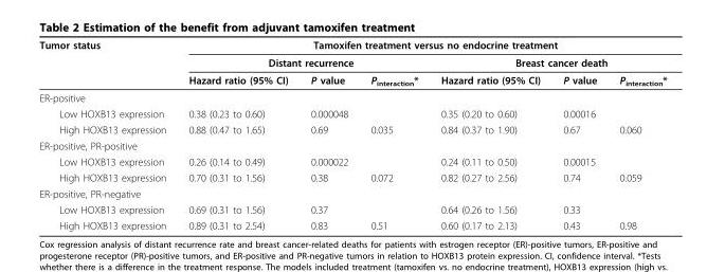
<table><thead><tr><td rowspan="3">Tumor status</td><td colspan="6">Tamoxifen treatment versus no endocrine treatment</td></tr><tr><td colspan="3">Distant recurrence</td><td colspan="3">Breast cancer death</td></tr><tr><td>Hazard ratio (95% CI)</td><td>P value</td><td>P<sub>interaction</sub>*</td><td>Hazard ratio (95% CI)</td><td>P value</td><td>P<sub>interaction</sub>*</td></tr></thead><tbody><tr><td colspan="7">ER-positive</td></tr><tr><td>Low HOXB13 expression</td><td>0.38 (0.23 to 0.60)</td><td>0.000048</td><td></td><td>0.35 (0.20 to 0.60)</td><td>0.00016</td><td></td></tr><tr><td>High HOXB13 expression</td><td>0.88 (0.47 to 1.65)</td><td>0.69</td><td>0.035</td><td>0.84 (0.37 to 1.90)</td><td>0.67</td><td>0.060</td></tr><tr><td colspan="7">ER-positive, PR-positive</td></tr><tr><td>Low HOXB13 expression</td><td>0.26 (0.14 to 0.49)</td><td>0.000022</td><td></td><td>0.24 (0.11 to 0.50)</td><td>0.00015</td><td></td></tr><tr><td>High HOXB13 expression</td><td>0.70 (0.31 to 1.56)</td><td>0.38</td><td>0.072</td><td>0.82 (0.27 to 2.56)</td><td>0.74</td><td>0.059</td></tr><tr><td colspan="7">ER-positive, PR-negative</td></tr><tr><td>Low HOXB13 expression</td><td>0.69 (0.31 to 1.56)</td><td>0.37</td><td></td><td>0.64 (0.26 to 1.56)</td><td>0.33</td><td></td></tr><tr><td>High HOXB13 expression</td><td>0.89 (0.31 to 2.54)</td><td>0.83</td><td>0.51</td><td>0.60 (0.17 to 2.13)</td><td>0.43</td><td>0.98</td></tr></tbody></table>